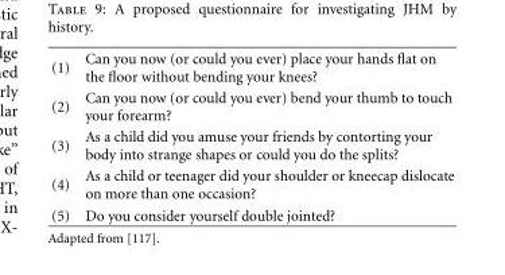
<table><tbody><tr><td>(1)</td><td>Can you now (or could you ever) place your hands flat on the floor without bending your knees?</td></tr><tr><td>(2)</td><td>Can you now (or could you ever) bend your thumb to touch your forearm?</td></tr><tr><td>(3)</td><td>As a child did you amuse your friends by contorting your body into strange shapes or could you do the splits?</td></tr><tr><td>(4)</td><td>As a child or teenager did your shoulder or kneecap dislocate on more than one occasion?</td></tr><tr><td>(5)</td><td>Do you consider yourself double jointed?</td></tr></tbody></table>